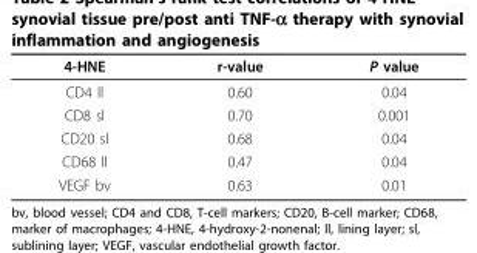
<table><thead><tr><td>4-HNE</td><td>r-value</td><td>P value</td></tr></thead><tbody><tr><td>CD4 ll</td><td>0.60</td><td>0.04</td></tr><tr><td>CD8 sl</td><td>0.70</td><td>0.001</td></tr><tr><td>CD20 sl</td><td>0.68</td><td>0.04</td></tr><tr><td>CD68 ll</td><td>0.47</td><td>0.04</td></tr><tr><td>VEGF bv</td><td>0.63</td><td>0.01</td></tr></tbody></table>